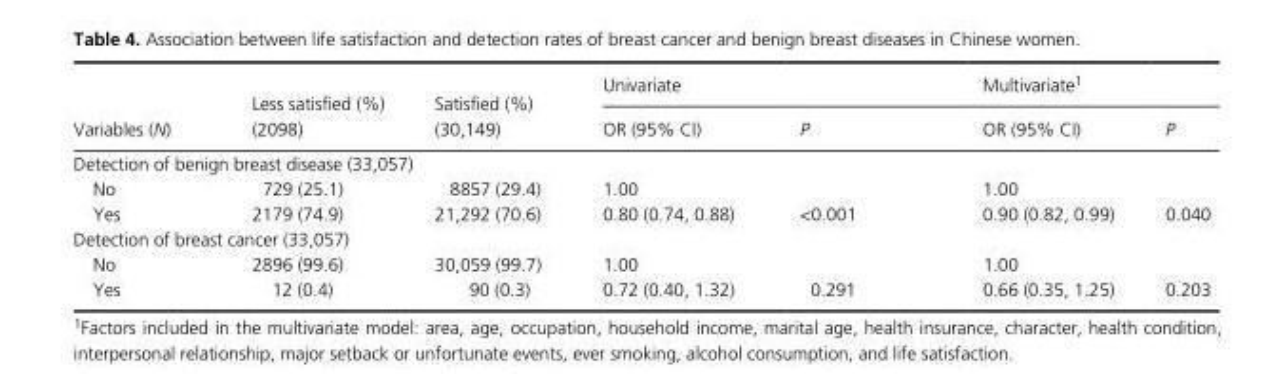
<table><thead><tr><td rowspan="2">Variables (N)</td><td rowspan="2">Less satisfied (%) (2098)</td><td rowspan="2">Satisfied (%) (30,149)</td><td colspan="2">Univariate</td><td colspan="2">Multivariate1</td></tr><tr><td>OR (95% CI)</td><td>P</td><td>OR (95% CI)</td><td>P</td></tr></thead><tbody><tr><td colspan="7">Detection of benign breast disease (33,057)</td></tr><tr><td>No</td><td>729 (25.1)</td><td>8857 (29.4)</td><td>1.00</td><td></td><td>1.00</td><td></td></tr><tr><td>Yes</td><td>2179 (74.9)</td><td>21,292 (70.6)</td><td>0.80 (0.74, 0.88)</td><td>&lt;0.001</td><td>0.90 (0.82, 0.99)</td><td>0.040</td></tr><tr><td colspan="7">Detection of breast cancer (33,057)</td></tr><tr><td>No</td><td>2896 (99.6)</td><td>30,059 (99.7)</td><td>1.00</td><td></td><td>1.00</td><td></td></tr><tr><td>Yes</td><td>12 (0.4)</td><td>90 (0.3)</td><td>0.72 (0.40, 1.32)</td><td>0.291</td><td>0.66 (0.35, 1.25)</td><td>0.203</td></tr></tbody></table>